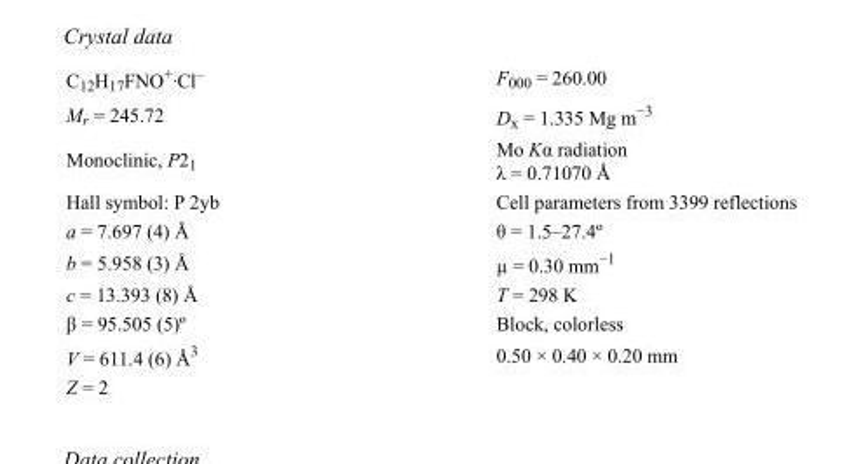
<table><tbody><tr><td>C<sub>12</sub>H<sub>17</sub>FNO<sup>+</sup>·Cl<sup>–</sup></td><td>F<sub>000</sub> = 260.00</td></tr><tr><td>M<sub>r</sub> = 245.72</td><td>D<sub>x</sub> = 1.335 Mg m<sup>−3</sup></td></tr><tr><td>Monoclinic, P2<sub>1</sub></td><td>Mo Kα radiation λ = 0.71070 Å</td></tr><tr><td>Hall symbol: P 2yb</td><td>Cell parameters from 3399 reflections</td></tr><tr><td>a = 7.697 (4) Å</td><td>θ = 1.5–27.4º</td></tr><tr><td>b = 5.958 (3) Å</td><td>µ = 0.30 mm<sup>−1</sup></td></tr><tr><td>c = 13.393 (8) Å</td><td>T = 298 K</td></tr><tr><td>β = 95.505 (5)º</td><td>Block, colorless</td></tr><tr><td>V = 611.4 (6) Å<sup>3</sup></td><td>0.50 × 0.40 × 0.20 mm</td></tr><tr><td>Z = 2</td><td></td></tr></tbody></table>